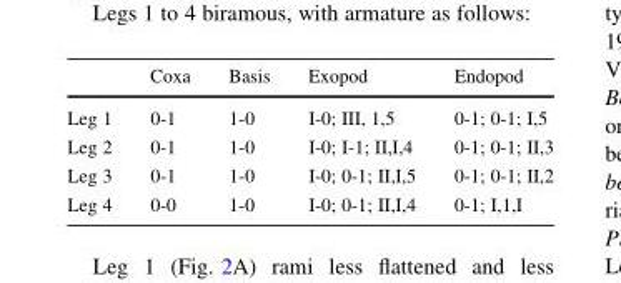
<table><thead><tr><td></td><td>Coxa</td><td>Basis</td><td>Exopod</td><td>Endopod</td></tr></thead><tbody><tr><td>Leg 1</td><td>0-1</td><td>1-0</td><td>I-0; III, 1,5</td><td>0-1; 0-1; I,5</td></tr><tr><td>Leg 2</td><td>0-1</td><td>1-0</td><td>I-0; I-1; II,I,4</td><td>0-1; 0-1; II,3</td></tr><tr><td>Leg 3</td><td>0-1</td><td>1-0</td><td>I-0; 0-1; II,I,5</td><td>0-1; 0-1; II,2</td></tr><tr><td>Leg 4</td><td>0-0</td><td>1-0</td><td>I-0; 0-1; II,I,4</td><td>0-1; I,1,I</td></tr></tbody></table>